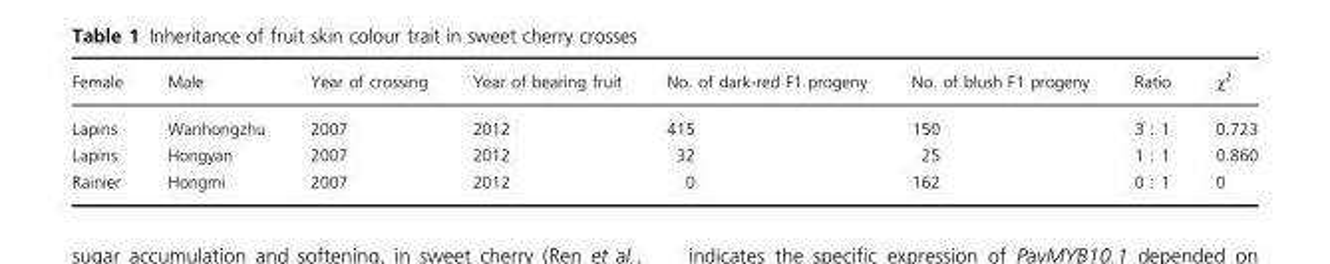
<table><thead><tr><td>Female</td><td>Male</td><td>Year of crossing</td><td>Year of bearing fruit</td><td>No. of dark-red F1 progeny</td><td>No. of blush F1 progeny</td><td>Ratio</td><td>χ<sup>2</sup></td></tr></thead><tbody><tr><td>Lapins</td><td>Wanhongzhu</td><td>2007</td><td>2012</td><td>415</td><td>150</td><td>3 : 1</td><td>0.723</td></tr><tr><td>Lapins</td><td>Hongyan</td><td>2007</td><td>2012</td><td>32</td><td>25</td><td>1 : 1</td><td>0.860</td></tr><tr><td>Rainier</td><td>Hongmi</td><td>2007</td><td>2012</td><td>0</td><td>162</td><td>0 : 1</td><td>0</td></tr></tbody></table>